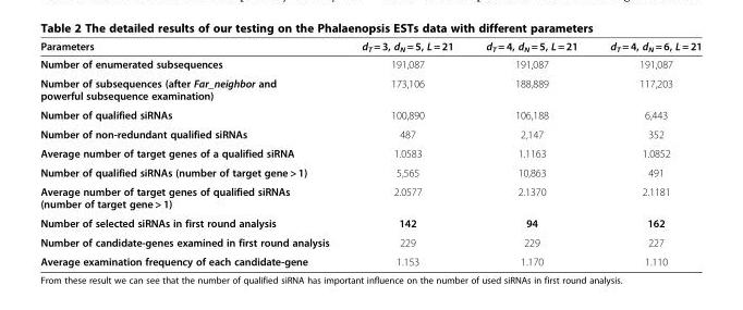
<table><thead><tr><td>Parameters</td><td>d<sub>T</sub> = 3, d<sub>N</sub> = 5, L = 21</td><td>d<sub>T</sub> = 4, d<sub>N</sub> = 5, L = 21</td><td>d<sub>T</sub> = 4, d<sub>N</sub> = 6, L = 21</td></tr></thead><tbody><tr><td>Number of enumerated subsequences</td><td>191,087</td><td>191,087</td><td>191,087</td></tr><tr><td>Number of subsequences (after Far_neighbor and powerful subsequence examination)</td><td>173,106</td><td>188,889</td><td>117,203</td></tr><tr><td>Number of qualified siRNAs</td><td>100,890</td><td>106,188</td><td>6,443</td></tr><tr><td>Number of non-redundant qualified siRNAs</td><td>487</td><td>2,147</td><td>352</td></tr><tr><td>Average number of target genes of a qualified siRNA</td><td>1.0583</td><td>1.1163</td><td>1.0852</td></tr><tr><td>Number of qualified siRNAs (number of target gene &gt; 1)</td><td>5,565</td><td>10,863</td><td>491</td></tr><tr><td>Average number of target genes of qualified siRNAs (number of target gene &gt; 1)</td><td>2.0577</td><td>2.1370</td><td>2.1181</td></tr><tr><td>Number of selected siRNAs in first round analysis</td><td>142</td><td>94</td><td>162</td></tr><tr><td>Number of candidate-genes examined in first round analysis</td><td>229</td><td>229</td><td>227</td></tr><tr><td>Average examination frequency of each candidate-gene</td><td>1.153</td><td>1.170</td><td>1.110</td></tr></tbody></table>